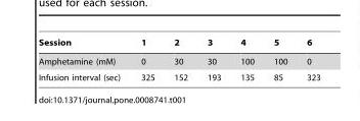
<table><thead><tr><td>Session</td><td>1</td><td>2</td><td>3</td><td>4</td><td>5</td><td>6</td></tr></thead><tbody><tr><td>Amphetamine (mM)</td><td>0</td><td>30</td><td>30</td><td>100</td><td>100</td><td>0</td></tr><tr><td>Infusion interval (sec)</td><td>325</td><td>152</td><td>193</td><td>135</td><td>85</td><td>323</td></tr></tbody></table>